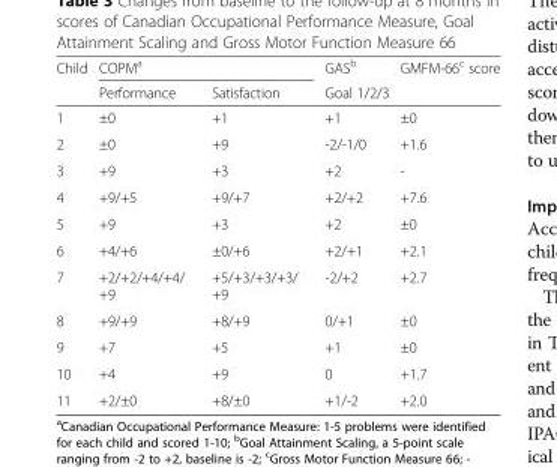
<table><thead><tr><td rowspan="2">Child</td><td colspan="2">COPM<sup>a</sup></td><td rowspan="2">GAS<sup>b</sup> Goal 1/2/3</td><td rowspan="2">GMFM-66<sup>c</sup> score</td></tr><tr><td>Performance</td><td>Satisfaction</td></tr></thead><tbody><tr><td>1</td><td>±0</td><td>+1</td><td>+1</td><td>±0</td></tr><tr><td>2</td><td>±0</td><td>+9</td><td>-2/-1/0</td><td>+1.6</td></tr><tr><td>3</td><td>+9</td><td>+3</td><td>+2</td><td>-</td></tr><tr><td>4</td><td>+9/+5</td><td>+9/+7</td><td>+2/+2</td><td>+7.6</td></tr><tr><td>5</td><td>+9</td><td>+3</td><td>+2</td><td>±0</td></tr><tr><td>6</td><td>+4/+6</td><td>±0/+6</td><td>+2/+1</td><td>+2.1</td></tr><tr><td>7</td><td>+2/+2/+4/+4/ +9</td><td>+5/+3/+3/+3/ +9</td><td>-2/+2</td><td>+2.7</td></tr><tr><td>8</td><td>+9/+9</td><td>+8/+9</td><td>0/+1</td><td>±0</td></tr><tr><td>9</td><td>+7</td><td>+5</td><td>+1</td><td>±0</td></tr><tr><td>10</td><td>+4</td><td>+9</td><td>0</td><td>+1.7</td></tr><tr><td>11</td><td>+2/±0</td><td>+8/±0</td><td>+1/-2</td><td>+2.0</td></tr></tbody></table>